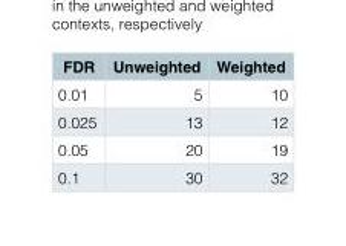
<table><thead><tr><td>FDR</td><td>Unweighted</td><td>Weighted</td></tr></thead><tbody><tr><td>0.01</td><td>5</td><td>10</td></tr><tr><td>0.025</td><td>13</td><td>12</td></tr><tr><td>0.05</td><td>20</td><td>19</td></tr><tr><td>0.1</td><td>30</td><td>32</td></tr></tbody></table>